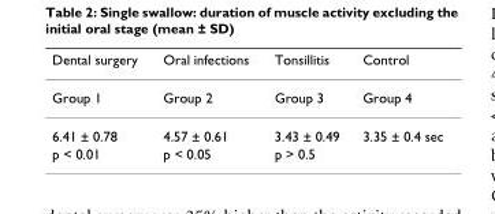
<table><thead><tr><td>Dental surgery</td><td>Oral infections</td><td>Tonsillitis</td><td>Control</td></tr></thead><tbody><tr><td>Group 1</td><td>Group 2</td><td>Group 3</td><td>Group 4</td></tr><tr><td>6.41 ± 0.78</td><td>4.57 ± 0.61</td><td>3.43 ± 0.49</td><td>3.35 ± 0.4 sec</td></tr><tr><td>p &lt; 0.01</td><td>p &lt; 0.05</td><td>p &gt; 0.5</td><td></td></tr></tbody></table>